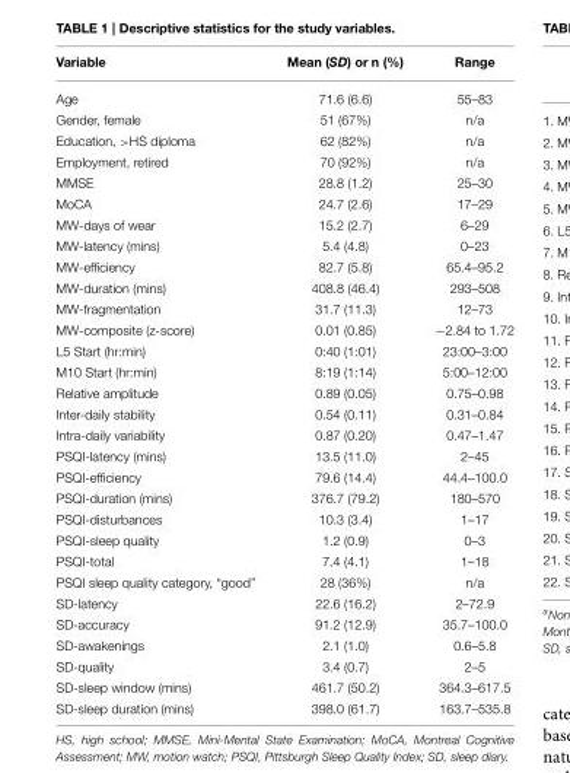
<table><thead><tr><td>Variable</td><td>Mean (SD) or n (%)</td><td>Range</td></tr></thead><tbody><tr><td>Age</td><td>71.6 (6.6)</td><td>55–83</td></tr><tr><td>Gender, female</td><td>51 (67%)</td><td>n/a</td></tr><tr><td>Education, &gt;HS diploma</td><td>62 (82%)</td><td>n/a</td></tr><tr><td>Employment, retired</td><td>70 (92%)</td><td>n/a</td></tr><tr><td>MMSE</td><td>28.8 (1.2)</td><td>25–30</td></tr><tr><td>MoCA</td><td>24.7 (2.6)</td><td>17–29</td></tr><tr><td>MW-days of wear</td><td>15.2 (2.7)</td><td>6–29</td></tr><tr><td>MW-latency (mins)</td><td>5.4 (4.8)</td><td>0–23</td></tr><tr><td>MW-efficiency</td><td>82.7 (5.8)</td><td>65.4–95.2</td></tr><tr><td>MW-duration (mins)</td><td>408.8 (46.4)</td><td>293–508</td></tr><tr><td>MW-fragmentation</td><td>31.7 (11.3)</td><td>12–73</td></tr><tr><td>MW-composite (z-score)</td><td>0.01 (0.85)</td><td>−2.84 to 1.72</td></tr><tr><td>L5 Start (hr:min)</td><td>0:40 (1:01)</td><td>23:00–3:00</td></tr><tr><td>M10 Start (hr:min)</td><td>8:19 (1:14)</td><td>5:00–12:00</td></tr><tr><td>Relative amplitude</td><td>0.89 (0.05)</td><td>0.75–0.98</td></tr><tr><td>Inter-daily stability</td><td>0.54 (0.11)</td><td>0.31–0.84</td></tr><tr><td>Intra-daily variability</td><td>0.87 (0.20)</td><td>0.47–1.47</td></tr><tr><td>PSQI-latency (mins)</td><td>13.5 (11.0)</td><td>2–45</td></tr><tr><td>PSQI-efficiency</td><td>79.6 (14.4)</td><td>44.4–100.0</td></tr><tr><td>PSQI-duration (mins)</td><td>376.7 (79.2)</td><td>180–570</td></tr><tr><td>PSQI-disturbances</td><td>10.3 (3.4)</td><td>1–17</td></tr><tr><td>PSQI-sleep quality</td><td>1.2 (0.9)</td><td>0–3</td></tr><tr><td>PSQI-total</td><td>7.4 (4.1)</td><td>1–18</td></tr><tr><td>PSQI sleep quality category, “good”</td><td>28 (36%)</td><td>n/a</td></tr><tr><td>SD-latency</td><td>22.6 (16.2)</td><td>2–72.9</td></tr><tr><td>SD-accuracy</td><td>91.2 (12.9)</td><td>35.7–100.0</td></tr><tr><td>SD-awakenings</td><td>2.1 (1.0)</td><td>0.6–5.8</td></tr><tr><td>SD-quality</td><td>3.4 (0.7)</td><td>2–5</td></tr><tr><td>SD-sleep window (mins)</td><td>461.7 (50.2)</td><td>364.3–617.5</td></tr><tr><td>SD-sleep duration (mins)</td><td>398.0 (61.7)</td><td>163.7–535.8</td></tr></tbody></table>